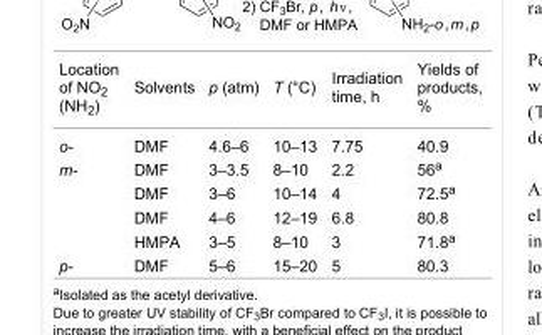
<table><tbody><tr><td>Location of NO<sub>2</sub> (NH<sub>2</sub>)</td><td>Solvents</td><td>p (atm)</td><td>T (°C)</td><td>Irradiation time, h</td><td>Yields of products, %</td></tr><tr><td>o-</td><td>DMF</td><td>4.6–6</td><td>10–13</td><td>7.75</td><td>40.9</td></tr><tr><td rowspan="4">m-</td><td>DMF</td><td>3–3.5</td><td>8–10</td><td>2.2</td><td>56<sup>a</sup></td></tr><tr><td>DMF</td><td>3–6</td><td>10–14</td><td>4</td><td>72.5<sup>a</sup></td></tr><tr><td>DMF</td><td>4–6</td><td>12–19</td><td>6.8</td><td>80.8</td></tr><tr><td>HMPA</td><td>3–5</td><td>8–10</td><td>3</td><td>71.8<sup>a</sup></td></tr><tr><td>p-</td><td>DMF</td><td>5–6</td><td>15–20</td><td>5</td><td>80.3</td></tr></tbody></table>